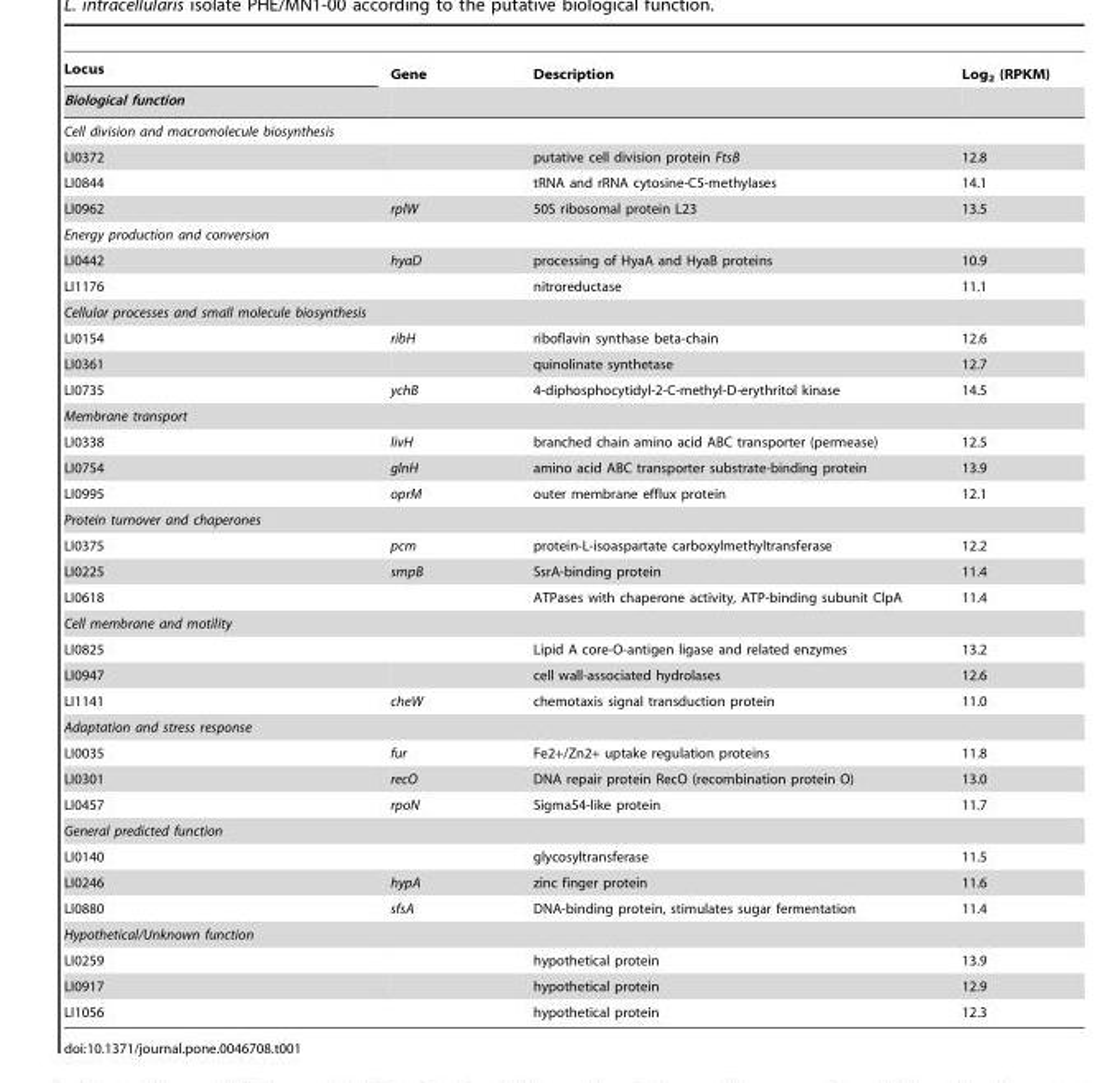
<table><thead><tr><td rowspan="2">Locus Biological function</td><td rowspan="2">Gene</td><td rowspan="2">Description</td><td rowspan="2">Log<sub>2</sub> (RPKM)</td></tr><tr></tr></thead><tbody><tr><td colspan="4">Cell division and macromolecule biosynthesis</td></tr><tr><td>LI0372</td><td></td><td>putative cell division protein FtsB</td><td>12.8</td></tr><tr><td>LI0844</td><td></td><td>tRNA and rRNA cytosine-C5-methylases</td><td>14.1</td></tr><tr><td>LI0962</td><td>rplW</td><td>50S ribosomal protein L23</td><td>13.5</td></tr><tr><td colspan="4">Energy production and conversion</td></tr><tr><td>LI0442</td><td>hyaD</td><td>processing of HyaA and HyaB proteins</td><td>10.9</td></tr><tr><td>LI1176</td><td></td><td>nitroreductase</td><td>11.1</td></tr><tr><td colspan="4">Cellular processes and small molecule biosynthesis</td></tr><tr><td>LI0154</td><td>ribH</td><td>riboflavin synthase beta-chain</td><td>12.6</td></tr><tr><td>LI0361</td><td></td><td>quinolinate synthetase</td><td>12.7</td></tr><tr><td>LI0735</td><td>ychB</td><td>4-diphosphocytidyl-2-C-methyl-D-erythritol kinase</td><td>14.5</td></tr><tr><td colspan="4">Membrane transport</td></tr><tr><td>LI0338</td><td>livH</td><td>branched chain amino acid ABC transporter (permease)</td><td>12.5</td></tr><tr><td>LI0754</td><td>glnH</td><td>amino acid ABC transporter substrate-binding protein</td><td>13.9</td></tr><tr><td>LI0995</td><td>oprM</td><td>outer membrane efflux protein</td><td>12.1</td></tr><tr><td colspan="4">Protein turnover and chaperones</td></tr><tr><td>LI0375</td><td>pcm</td><td>protein-L-isoaspartate carboxylmethyltransferase</td><td>12.2</td></tr><tr><td>LI0225</td><td>smpB</td><td>SsrA-binding protein</td><td>11.4</td></tr><tr><td>LI0618</td><td></td><td>ATPases with chaperone activity, ATP-binding subunit ClpA</td><td>11.4</td></tr><tr><td colspan="4">Cell membrane and motility</td></tr><tr><td>LI0825</td><td></td><td>Lipid A core-O-antigen ligase and related enzymes</td><td>13.2</td></tr><tr><td>LI0947</td><td></td><td>cell wall-associated hydrolases</td><td>12.6</td></tr><tr><td>LI1141</td><td>cheW</td><td>chemotaxis signal transduction protein</td><td>11.0</td></tr><tr><td colspan="4">Adaptation and stress response</td></tr><tr><td>LI0035</td><td>fur</td><td>Fe2+/Zn2+ uptake regulation proteins</td><td>11.8</td></tr><tr><td>LI0301</td><td>recO</td><td>DNA repair protein RecO (recombination protein O)</td><td>13.0</td></tr><tr><td>LI0457</td><td>rpoN</td><td>Sigma54-like protein</td><td>11.7</td></tr><tr><td colspan="4">General predicted function</td></tr><tr><td>LI0140</td><td></td><td>glycosyltransferase</td><td>11.5</td></tr><tr><td>LI0246</td><td>hypA</td><td>zinc finger protein</td><td>11.6</td></tr><tr><td>LI0880</td><td>sfsA</td><td>DNA-binding protein, stimulates sugar fermentation</td><td>11.4</td></tr><tr><td colspan="4">Hypothetical/Unknown function</td></tr><tr><td>LI0259</td><td></td><td>hypothetical protein</td><td>13.9</td></tr><tr><td>LI0917</td><td></td><td>hypothetical protein</td><td>12.9</td></tr><tr><td>LI1056</td><td></td><td>hypothetical protein</td><td>12.3</td></tr></tbody></table>